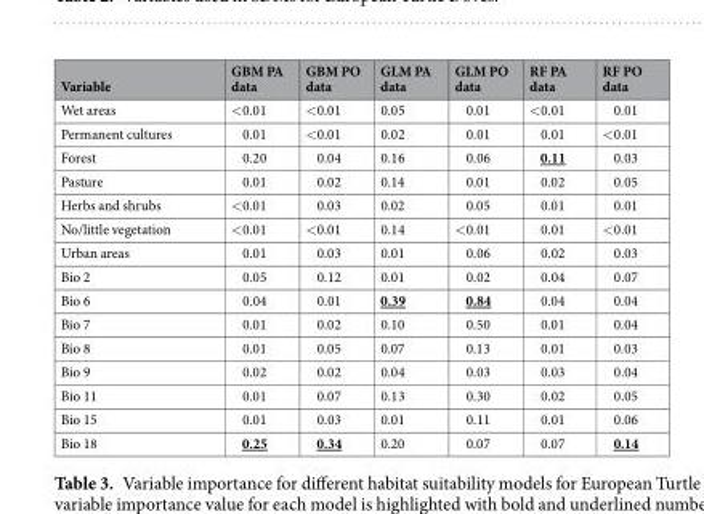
<table><thead><tr><td>Variable</td><td>GBM PA data</td><td>GBM PO data</td><td>GLM PA data</td><td>GLM PO data</td><td>RF PA data</td><td>RF PO data</td></tr></thead><tbody><tr><td>Wet areas</td><td>&lt;0.01</td><td>&lt;0.01</td><td>0.05</td><td>0.01</td><td>&lt;0.01</td><td>0.01</td></tr><tr><td>Permanent cultures</td><td>0.01</td><td>&lt;0.01</td><td>0.02</td><td>0.01</td><td>0.01</td><td>&lt;0.01</td></tr><tr><td>Forest</td><td>0.20</td><td>0.04</td><td>0.16</td><td>0.06</td><td>0.11</td><td>0.03</td></tr><tr><td>Pasture</td><td>0.01</td><td>0.02</td><td>0.14</td><td>0.01</td><td>0.02</td><td>0.05</td></tr><tr><td>Herbs and shrubs</td><td>&lt;0.01</td><td>0.03</td><td>0.02</td><td>0.05</td><td>0.01</td><td>0.01</td></tr><tr><td>No/little vegetation</td><td>&lt;0.01</td><td>&lt;0.01</td><td>0.14</td><td>&lt;0.01</td><td>0.01</td><td>&lt;0.01</td></tr><tr><td>Urban areas</td><td>0.01</td><td>0.03</td><td>0.01</td><td>0.06</td><td>0.02</td><td>0.03</td></tr><tr><td>Bio 2</td><td>0.05</td><td>0.12</td><td>0.01</td><td>0.02</td><td>0.04</td><td>0.07</td></tr><tr><td>Bio 6</td><td>0.04</td><td>0.01</td><td>0.39</td><td>0.84</td><td>0.04</td><td>0.04</td></tr><tr><td>Bio 7</td><td>0.01</td><td>0.02</td><td>0.10</td><td>0.50</td><td>0.01</td><td>0.04</td></tr><tr><td>Bio 8</td><td>0.01</td><td>0.05</td><td>0.07</td><td>0.13</td><td>0.01</td><td>0.03</td></tr><tr><td>Bio 9</td><td>0.02</td><td>0.02</td><td>0.04</td><td>0.03</td><td>0.03</td><td>0.04</td></tr><tr><td>Bio 11</td><td>0.01</td><td>0.07</td><td>0.13</td><td>0.30</td><td>0.02</td><td>0.05</td></tr><tr><td>Bio 15</td><td>0.01</td><td>0.03</td><td>0.01</td><td>0.11</td><td>0.01</td><td>0.06</td></tr><tr><td>Bio 18</td><td>0.25</td><td>0.34</td><td>0.20</td><td>0.07</td><td>0.07</td><td>0.14</td></tr></tbody></table>